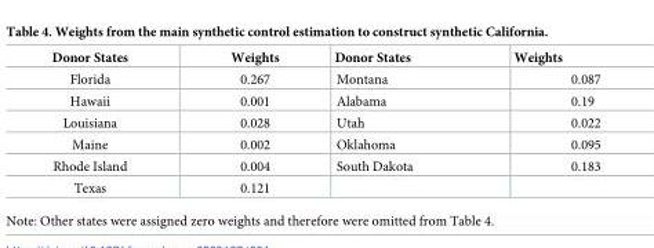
<table><thead><tr><td>Donor States</td><td>Weights</td><td>Donor States</td><td>Weights</td></tr></thead><tbody><tr><td>Florida</td><td>0.267</td><td>Montana</td><td>0.087</td></tr><tr><td>Hawaii</td><td>0.001</td><td>Alabama</td><td>0.19</td></tr><tr><td>Louisiana</td><td>0.028</td><td>Utah</td><td>0.022</td></tr><tr><td>Maine</td><td>0.002</td><td>Oklahoma</td><td>0.095</td></tr><tr><td>Rhode Island</td><td>0.004</td><td>South Dakota</td><td>0.183</td></tr><tr><td>Texas</td><td>0.121</td><td></td><td></td></tr></tbody></table>